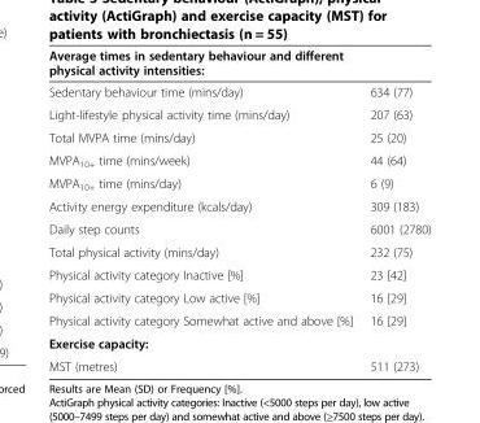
<table><thead><tr><td>Average times in sedentary behaviour and different physical activity intensities:</td><td></td></tr></thead><tbody><tr><td>Sedentary behaviour time (mins/day)</td><td>634 (77)</td></tr><tr><td>Light-lifestyle physical activity time (mins/day)</td><td>207 (63)</td></tr><tr><td>Total MVPA time (mins/day)</td><td>25 (20)</td></tr><tr><td>MVPA<sub>10+</sub> time (mins/week)</td><td>44 (64)</td></tr><tr><td>MVPA<sub>10+</sub> time (mins/day)</td><td>6 (9)</td></tr><tr><td>Activity energy expenditure (kcals/day)</td><td>309 (183)</td></tr><tr><td>Daily step counts</td><td>6001 (2780)</td></tr><tr><td>Total physical activity (mins/day)</td><td>232 (75)</td></tr><tr><td>Physical activity category Inactive [%]</td><td>23 [42]</td></tr><tr><td>Physical activity category Low active [%]</td><td>16 [29]</td></tr><tr><td>Physical activity category Somewhat active and above [%]</td><td>16 [29]</td></tr><tr><td colspan="2">Exercise capacity:</td></tr><tr><td>MST (metres)</td><td>511 (273)</td></tr></tbody></table>